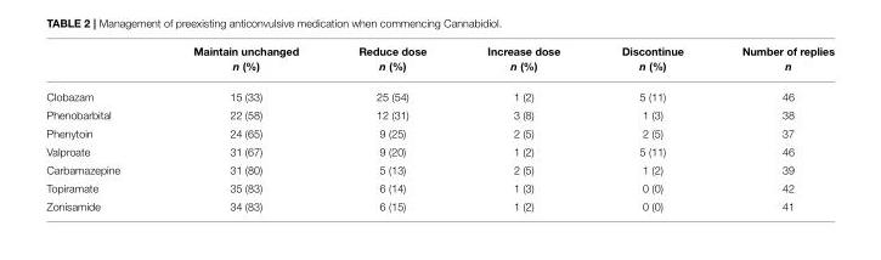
<table><thead><tr><td></td><td>Maintain unchanged n (%)</td><td>Reduce dose n (%)</td><td>Increase dose n (%)</td><td>Discontinue n (%)</td><td>Number of replies n</td></tr></thead><tbody><tr><td>Clobazam</td><td>15 (33)</td><td>25 (54)</td><td>1 (2)</td><td>5 (11)</td><td>46</td></tr><tr><td>Phenobarbital</td><td>22 (58)</td><td>12 (31)</td><td>3 (8)</td><td>1 (3)</td><td>38</td></tr><tr><td>Phenytoin</td><td>24 (65)</td><td>9 (25)</td><td>2 (5)</td><td>2 (5)</td><td>37</td></tr><tr><td>Valproate</td><td>31 (67)</td><td>9 (20)</td><td>1 (2)</td><td>5 (11)</td><td>46</td></tr><tr><td>Carbamazepine</td><td>31 (80)</td><td>5 (13)</td><td>2 (5)</td><td>1 (2)</td><td>39</td></tr><tr><td>Topiramate</td><td>35 (83)</td><td>6 (14)</td><td>1 (3)</td><td>0 (0)</td><td>42</td></tr><tr><td>Zonisamide</td><td>34 (83)</td><td>6 (15)</td><td>1 (2)</td><td>0 (0)</td><td>41</td></tr></tbody></table>